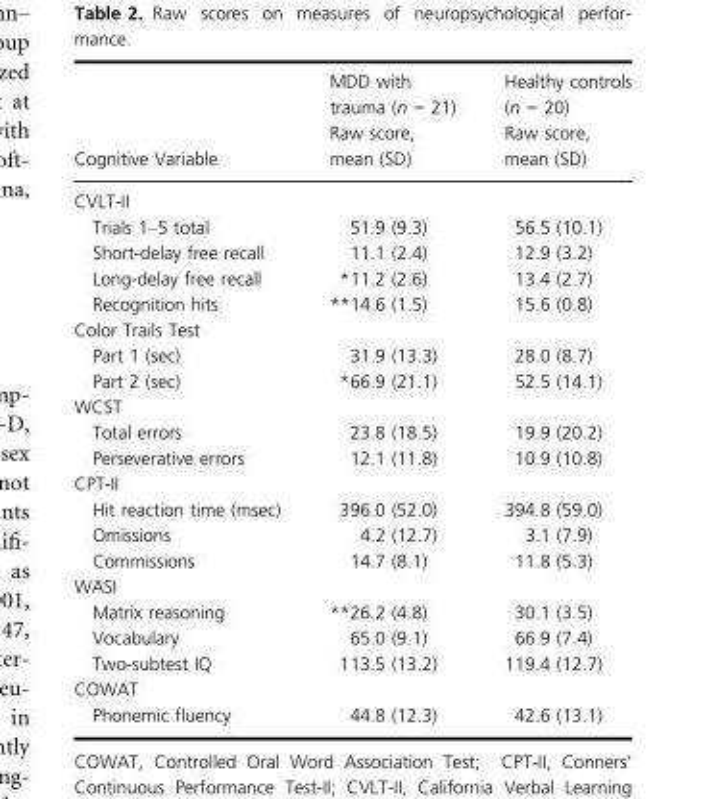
<table><thead><tr><td rowspan="2">Cognitive Variable</td><td rowspan="2">MDD with trauma (n = 21) Raw score, mean (SD)</td><td rowspan="2">Healthy controls (n = 20) Raw score, mean (SD)</td></tr><tr></tr></thead><tbody><tr><td colspan="3">CVLT-II</td></tr><tr><td>Trials 1–5 total</td><td>51.9 (9.3)</td><td>56.5 (10.1)</td></tr><tr><td>Short-delay free recall</td><td>11.1 (2.4)</td><td>12.9 (3.2)</td></tr><tr><td>Long-delay free recall</td><td>*11.2 (2.6)</td><td>13.4 (2.7)</td></tr><tr><td>Recognition hits</td><td>**14.6 (1.5)</td><td>15.6 (0.8)</td></tr><tr><td colspan="3">Color Trails Test</td></tr><tr><td>Part 1 (sec)</td><td>31.9 (13.3)</td><td>28.0 (8.7)</td></tr><tr><td>Part 2 (sec)</td><td>*66.9 (21.1)</td><td>52.5 (14.1)</td></tr><tr><td colspan="3">WCST</td></tr><tr><td>Total errors</td><td>23.8 (18.5)</td><td>19.9 (20.2)</td></tr><tr><td>Perseverative errors</td><td>12.1 (11.8)</td><td>10.9 (10.8)</td></tr><tr><td colspan="3">CPT-II</td></tr><tr><td>Hit reaction time (msec)</td><td>396.0 (52.0)</td><td>394.8 (59.0)</td></tr><tr><td>Omissions</td><td>4.2 (12.7)</td><td>3.1 (7.9)</td></tr><tr><td>Commissions</td><td>14.7 (8.1)</td><td>11.8 (5.3)</td></tr><tr><td colspan="3">WASI</td></tr><tr><td>Matrix reasoning</td><td>**26.2 (4.8)</td><td>30.1 (3.5)</td></tr><tr><td>Vocabulary</td><td>65.0 (9.1)</td><td>66.9 (7.4)</td></tr><tr><td>Two-subtest IQ</td><td>113.5 (13.2)</td><td>119.4 (12.7)</td></tr><tr><td colspan="3">COWAT</td></tr><tr><td>Phonemic fluency</td><td>44.8 (12.3)</td><td>42.6 (13.1)</td></tr></tbody></table>